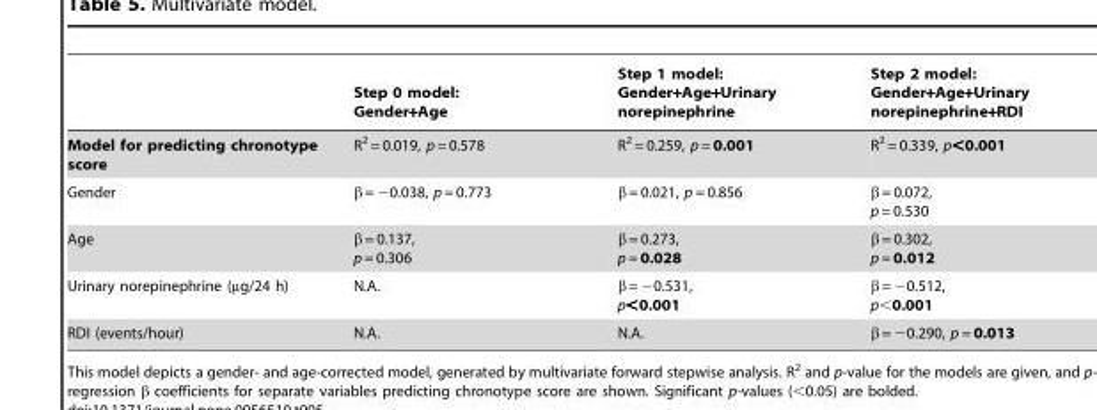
<table><thead><tr><td></td><td>Step 0 model: Gender+Age</td><td>Step 1 model: Gender+Age+Urinary norepinephrine</td><td>Step 2 model: Gender+Age+Urinary norepinephrine+RDI</td></tr></thead><tbody><tr><td>Model for predicting chronotype score</td><td>R<sup>2</sup> = 0.019, p = 0.578</td><td>R<sup>2</sup> = 0.259, p = 0.001</td><td>R<sup>2</sup> = 0.339, p&lt;0.001</td></tr><tr><td>Gender</td><td>β = −0.038, p = 0.773</td><td>β = 0.021, p = 0.856</td><td>β = 0.072, p = 0.530</td></tr><tr><td>Age</td><td>β = 0.137, p = 0.306</td><td>β = 0.273, p = 0.028</td><td>β = 0.302, p = 0.012</td></tr><tr><td>Urinary norepinephrine (µg/24 h)</td><td>N.A.</td><td>β = −0.531, p&lt;0.001</td><td>β = −0.512, p&lt;0.001</td></tr><tr><td>RDI (events/hour)</td><td>N.A.</td><td>N.A.</td><td>β = −0.290, p = 0.013</td></tr></tbody></table>